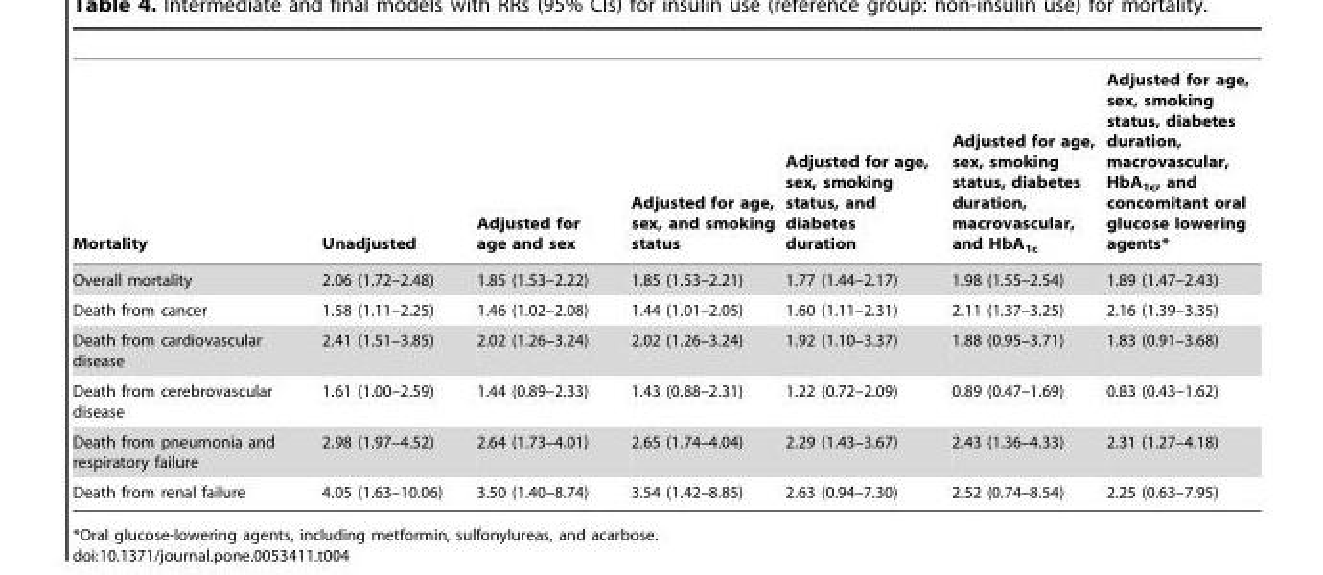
<table><thead><tr><td>Mortality</td><td>Unadjusted</td><td>Adjusted for age and sex</td><td>Adjusted for age, sex, and smoking status</td><td>Adjusted for age, sex, smoking status, and diabetes duration</td><td>Adjusted for age, sex, smoking status, diabetes duration, macrovascular, and HbA<sub>1c</sub></td><td>Adjusted for age, sex, smoking status, diabetes duration, macrovascular, HbA<sub>1c</sub>, and concomitant oral glucose lowering agents*</td></tr></thead><tbody><tr><td>Overall mortality</td><td>2.06 (1.72–2.48)</td><td>1.85 (1.53–2.22)</td><td>1.85 (1.53–2.21)</td><td>1.77 (1.44–2.17)</td><td>1.98 (1.55–2.54)</td><td>1.89 (1.47–2.43)</td></tr><tr><td>Death from cancer</td><td>1.58 (1.11–2.25)</td><td>1.46 (1.02–2.08)</td><td>1.44 (1.01–2.05)</td><td>1.60 (1.11–2.31)</td><td>2.11 (1.37–3.25)</td><td>2.16 (1.39–3.35)</td></tr><tr><td>Death from cardiovascular disease</td><td>2.41 (1.51–3.85)</td><td>2.02 (1.26–3.24)</td><td>2.02 (1.26–3.24)</td><td>1.92 (1.10–3.37)</td><td>1.88 (0.95–3.71)</td><td>1.83 (0.91–3.68)</td></tr><tr><td>Death from cerebrovascular disease</td><td>1.61 (1.00–2.59)</td><td>1.44 (0.89–2.33)</td><td>1.43 (0.88–2.31)</td><td>1.22 (0.72–2.09)</td><td>0.89 (0.47–1.69)</td><td>0.83 (0.43–1.62)</td></tr><tr><td>Death from pneumonia and respiratory failure</td><td>2.98 (1.97–4.52)</td><td>2.64 (1.73–4.01)</td><td>2.65 (1.74–4.04)</td><td>2.29 (1.43–3.67)</td><td>2.43 (1.36–4.33)</td><td>2.31 (1.27–4.18)</td></tr><tr><td>Death from renal failure</td><td>4.05 (1.63–10.06)</td><td>3.50 (1.40–8.74)</td><td>3.54 (1.42–8.85)</td><td>2.63 (0.94–7.30)</td><td>2.52 (0.74–8.54)</td><td>2.25 (0.63–7.95)</td></tr></tbody></table>